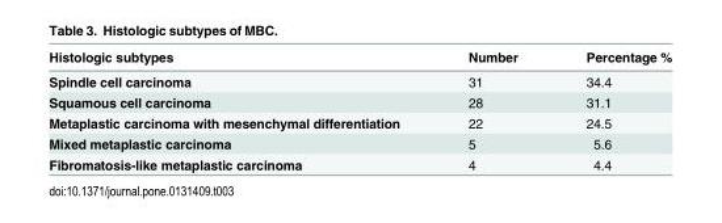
<table><thead><tr><td>Histologic subtypes</td><td>Number</td><td>Percentage %</td></tr></thead><tbody><tr><td>Spindle cell carcinoma</td><td>31</td><td>34.4</td></tr><tr><td>Squamous cell carcinoma</td><td>28</td><td>31.1</td></tr><tr><td>Metaplastic carcinoma with mesenchymal differentiation</td><td>22</td><td>24.5</td></tr><tr><td>Mixed metaplastic carcinoma</td><td>5</td><td>5.6</td></tr><tr><td>Fibromatosis-like metaplastic carcinoma</td><td>4</td><td>4.4</td></tr></tbody></table>